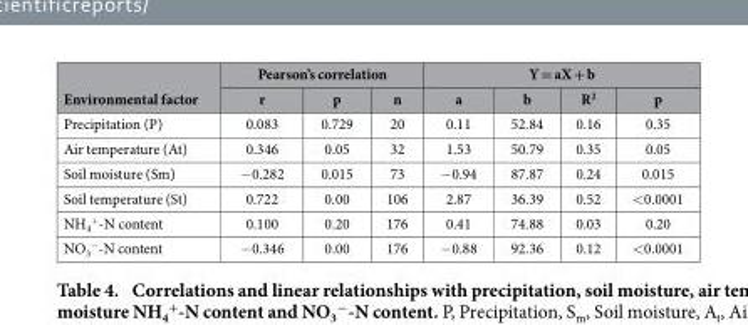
<table><thead><tr><td rowspan="2">Environmental factor</td><td colspan="3">Pearson’s correlation</td><td colspan="4">Y = aX + b</td></tr><tr><td>r</td><td>p</td><td>n</td><td>a</td><td>b</td><td>R<sup>2</sup></td><td>p</td></tr></thead><tbody><tr><td>Precipitation (P)</td><td>0.083</td><td>0.729</td><td>20</td><td>0.11</td><td>52.84</td><td>0.16</td><td>0.35</td></tr><tr><td>Air temperature (At)</td><td>0.346</td><td>0.05</td><td>32</td><td>1.53</td><td>50.79</td><td>0.35</td><td>0.05</td></tr><tr><td>Soil moisture (Sm)</td><td>− 0.282</td><td>0.015</td><td>73</td><td>− 0.94</td><td>87.87</td><td>0.24</td><td>0.015</td></tr><tr><td>Soil temperature (St)</td><td>0.722</td><td>0.00</td><td>106</td><td>2.87</td><td>36.39</td><td>0.52</td><td>&lt; 0.0001</td></tr><tr><td>NH<sub>4</sub> <sup>+</sup>-N content</td><td>0.100</td><td>0.20</td><td>176</td><td>0.41</td><td>74.88</td><td>0.03</td><td>0.20</td></tr><tr><td>NO<sub>3</sub> <sup>−</sup>-N content</td><td>− 0.346</td><td>0.00</td><td>176</td><td>− 0.88</td><td>92.36</td><td>0.12</td><td>&lt; 0.0001</td></tr></tbody></table>